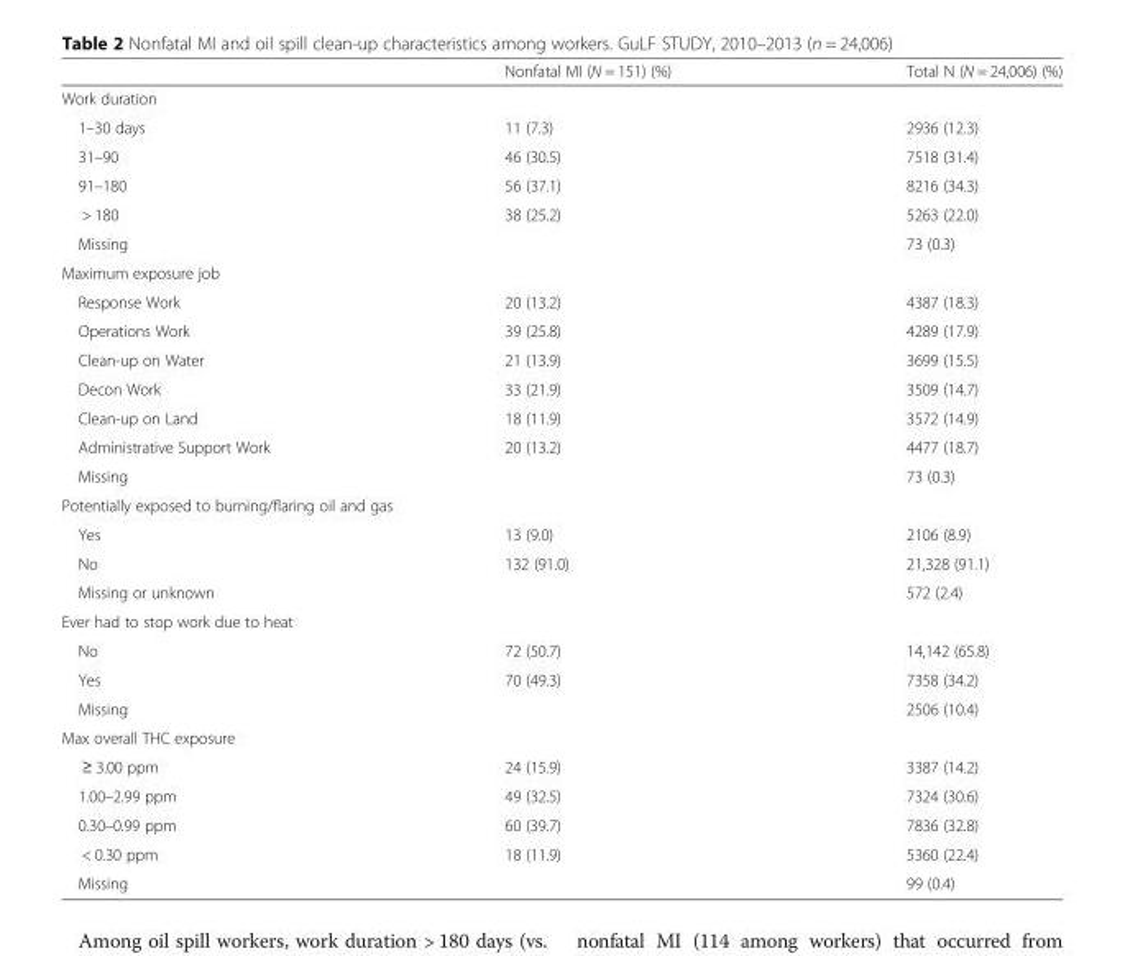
<table><thead><tr><td></td><td>Nonfatal MI (N = 151) (%)</td><td>Total N (N = 24,006) (%)</td></tr></thead><tbody><tr><td colspan="3">Work duration</td></tr><tr><td>1–30 days</td><td>11 (7.3)</td><td>2936 (12.3)</td></tr><tr><td>31–90</td><td>46 (30.5)</td><td>7518 (31.4)</td></tr><tr><td>91–180</td><td>56 (37.1)</td><td>8216 (34.3)</td></tr><tr><td>&gt; 180</td><td>38 (25.2)</td><td>5263 (22.0)</td></tr><tr><td>Missing</td><td></td><td>73 (0.3)</td></tr><tr><td colspan="3">Maximum exposure job</td></tr><tr><td>Response Work</td><td>20 (13.2)</td><td>4387 (18.3)</td></tr><tr><td>Operations Work</td><td>39 (25.8)</td><td>4289 (17.9)</td></tr><tr><td>Clean-up on Water</td><td>21 (13.9)</td><td>3699 (15.5)</td></tr><tr><td>Decon Work</td><td>33 (21.9)</td><td>3509 (14.7)</td></tr><tr><td>Clean-up on Land</td><td>18 (11.9)</td><td>3572 (14.9)</td></tr><tr><td>Administrative Support Work</td><td>20 (13.2)</td><td>4477 (18.7)</td></tr><tr><td>Missing</td><td></td><td>73 (0.3)</td></tr><tr><td colspan="3">Potentially exposed to burning/flaring oil and gas</td></tr><tr><td>Yes</td><td>13 (9.0)</td><td>2106 (8.9)</td></tr><tr><td>No</td><td>132 (91.0)</td><td>21,328 (91.1)</td></tr><tr><td colspan="2">Missing or unknown</td><td>572 (2.4)</td></tr><tr><td colspan="3">Ever had to stop work due to heat</td></tr><tr><td>No</td><td>72 (50.7)</td><td>14,142 (65.8)</td></tr><tr><td>Yes</td><td>70 (49.3)</td><td>7358 (34.2)</td></tr><tr><td>Missing</td><td></td><td>2506 (10.4)</td></tr><tr><td colspan="3">Max overall THC exposure</td></tr><tr><td>≥ 3.00 ppm</td><td>24 (15.9)</td><td>3387 (14.2)</td></tr><tr><td>1.00–2.99 ppm</td><td>49 (32.5)</td><td>7324 (30.6)</td></tr><tr><td>0.30–0.99 ppm</td><td>60 (39.7)</td><td>7836 (32.8)</td></tr><tr><td>&lt; 0.30 ppm</td><td>18 (11.9)</td><td>5360 (22.4)</td></tr><tr><td>Missing</td><td></td><td>99 (0.4)</td></tr></tbody></table>